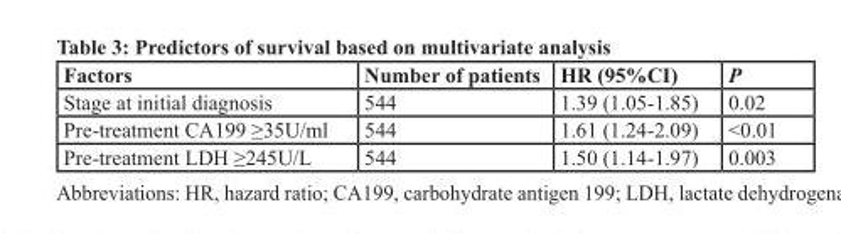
<table><thead><tr><td>Factors</td><td>Number of patients</td><td>HR (95%CI)</td><td>P</td></tr></thead><tbody><tr><td>Stage at initial diagnosis</td><td>544</td><td>1.39 (1.05-1.85)</td><td>0.02</td></tr><tr><td>Pre-treatment CA199 ≥35U/ml</td><td>544</td><td>1.61 (1.24-2.09)</td><td>&lt;0.01</td></tr><tr><td>Pre-treatment LDH ≥245U/L</td><td>544</td><td>1.50 (1.14-1.97)</td><td>0.003</td></tr></tbody></table>